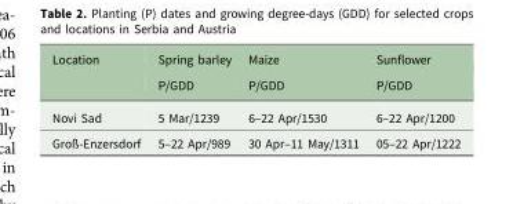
<table><thead><tr><td rowspan="2">Location</td><td rowspan="2">Spring barley P/GDD</td><td rowspan="2">Maize P/GDD</td><td rowspan="2">Sunflower P/GDD</td></tr><tr></tr></thead><tbody><tr><td>Novi Sad</td><td>5 Mar/1239</td><td>6–22 Apr/1530</td><td>6–22 Apr/1200</td></tr><tr><td>Groß-Enzersdorf</td><td>5–22 Apr/989</td><td>30 Apr–11 May/1311</td><td>05–22 Apr/1222</td></tr></tbody></table>